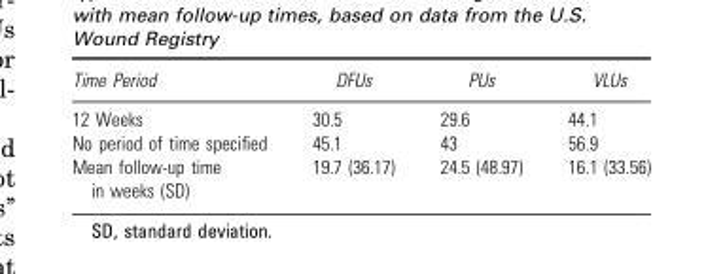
<table><thead><tr><td>Time Period</td><td>DFUs</td><td>PUs</td><td>VLUs</td></tr></thead><tbody><tr><td>12 Weeks</td><td>30.5</td><td>29.6</td><td>44.1</td></tr><tr><td>No period of time specified</td><td>45.1</td><td>43</td><td>56.9</td></tr><tr><td>Mean follow-up time in weeks (SD)</td><td>19.7 (36.17)</td><td>24.5 (48.97)</td><td>16.1 (33.56)</td></tr></tbody></table>